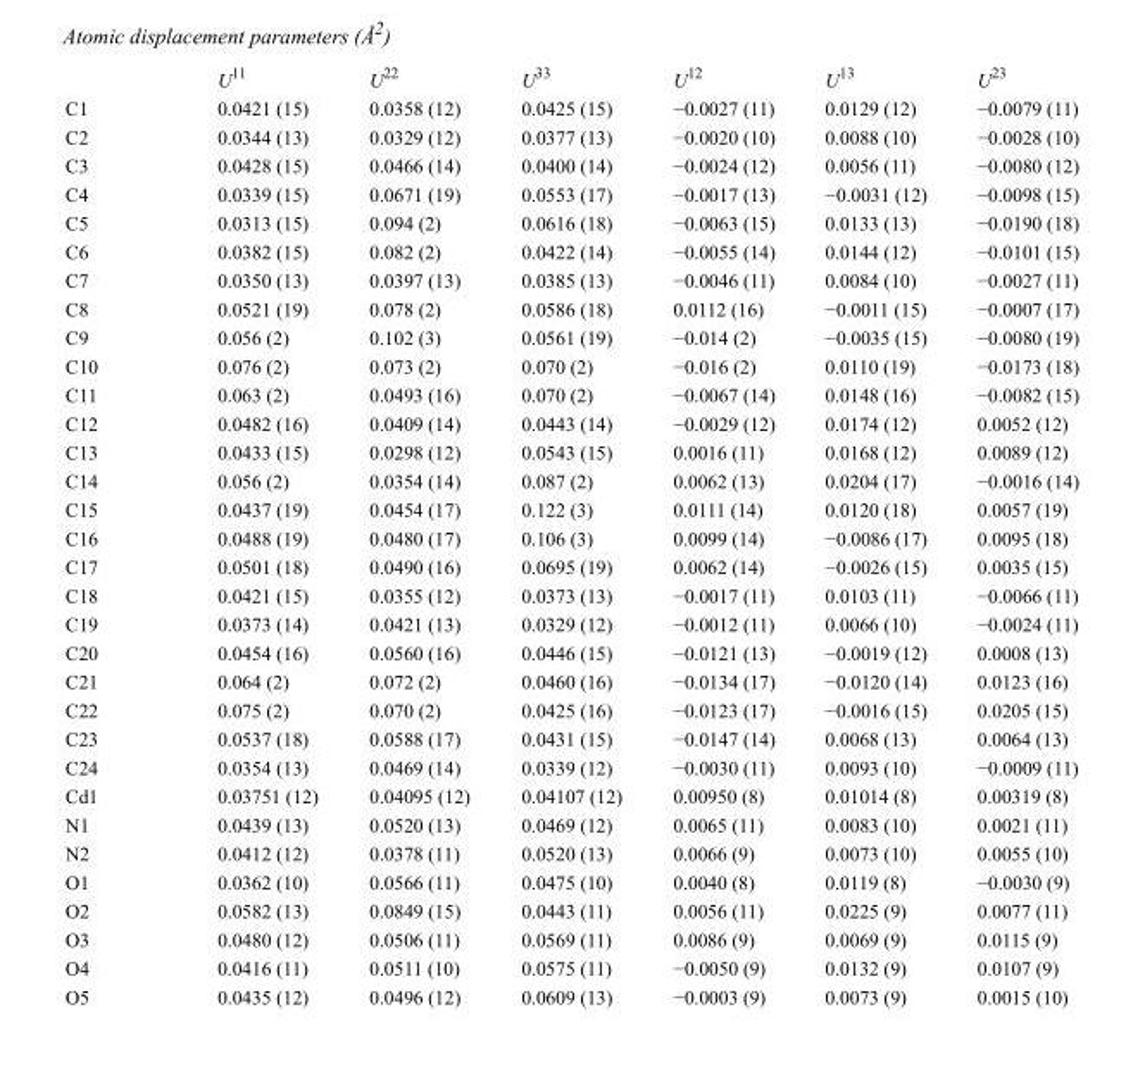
<table><thead><tr><td></td><td>U<sup>11</sup></td><td>U<sup>22</sup></td><td>U<sup>33</sup></td><td>U<sup>12</sup></td><td>U<sup>13</sup></td><td>U<sup>23</sup></td></tr></thead><tbody><tr><td>C1</td><td>0.0421 (15)</td><td>0.0358 (12)</td><td>0.0425 (15)</td><td>−0.0027 (11)</td><td>0.0129 (12)</td><td>−0.0079 (11)</td></tr><tr><td>C2</td><td>0.0344 (13)</td><td>0.0329 (12)</td><td>0.0377 (13)</td><td>−0.0020 (10)</td><td>0.0088 (10)</td><td>−0.0028 (10)</td></tr><tr><td>C3</td><td>0.0428 (15)</td><td>0.0466 (14)</td><td>0.0400 (14)</td><td>−0.0024 (12)</td><td>0.0056 (11)</td><td>−0.0080 (12)</td></tr><tr><td>C4</td><td>0.0339 (15)</td><td>0.0671 (19)</td><td>0.0553 (17)</td><td>−0.0017 (13)</td><td>−0.0031 (12)</td><td>−0.0098 (15)</td></tr><tr><td>C5</td><td>0.0313 (15)</td><td>0.094 (2)</td><td>0.0616 (18)</td><td>−0.0063 (15)</td><td>0.0133 (13)</td><td>−0.0190 (18)</td></tr><tr><td>C6</td><td>0.0382 (15)</td><td>0.082 (2)</td><td>0.0422 (14)</td><td>−0.0055 (14)</td><td>0.0144 (12)</td><td>−0.0101 (15)</td></tr><tr><td>C7</td><td>0.0350 (13)</td><td>0.0397 (13)</td><td>0.0385 (13)</td><td>−0.0046 (11)</td><td>0.0084 (10)</td><td>−0.0027 (11)</td></tr><tr><td>C8</td><td>0.0521 (19)</td><td>0.078 (2)</td><td>0.0586 (18)</td><td>0.0112 (16)</td><td>−0.0011 (15)</td><td>−0.0007 (17)</td></tr><tr><td>C9</td><td>0.056 (2)</td><td>0.102 (3)</td><td>0.0561 (19)</td><td>−0.014 (2)</td><td>−0.0035 (15)</td><td>−0.0080 (19)</td></tr><tr><td>C10</td><td>0.076 (2)</td><td>0.073 (2)</td><td>0.070 (2)</td><td>−0.016 (2)</td><td>0.0110 (19)</td><td>−0.0173 (18)</td></tr><tr><td>C11</td><td>0.063 (2)</td><td>0.0493 (16)</td><td>0.070 (2)</td><td>−0.0067 (14)</td><td>0.0148 (16)</td><td>−0.0082 (15)</td></tr><tr><td>C12</td><td>0.0482 (16)</td><td>0.0409 (14)</td><td>0.0443 (14)</td><td>−0.0029 (12)</td><td>0.0174 (12)</td><td>0.0052 (12)</td></tr><tr><td>C13</td><td>0.0433 (15)</td><td>0.0298 (12)</td><td>0.0543 (15)</td><td>0.0016 (11)</td><td>0.0168 (12)</td><td>0.0089 (12)</td></tr><tr><td>C14</td><td>0.056 (2)</td><td>0.0354 (14)</td><td>0.087 (2)</td><td>0.0062 (13)</td><td>0.0204 (17)</td><td>−0.0016 (14)</td></tr><tr><td>C15</td><td>0.0437 (19)</td><td>0.0454 (17)</td><td>0.122 (3)</td><td>0.0111 (14)</td><td>0.0120 (18)</td><td>0.0057 (19)</td></tr><tr><td>C16</td><td>0.0488 (19)</td><td>0.0480 (17)</td><td>0.106 (3)</td><td>0.0099 (14)</td><td>−0.0086 (17)</td><td>0.0095 (18)</td></tr><tr><td>C17</td><td>0.0501 (18)</td><td>0.0490 (16)</td><td>0.0695 (19)</td><td>0.0062 (14)</td><td>−0.0026 (15)</td><td>0.0035 (15)</td></tr><tr><td>C18</td><td>0.0421 (15)</td><td>0.0355 (12)</td><td>0.0373 (13)</td><td>−0.0017 (11)</td><td>0.0103 (11)</td><td>−0.0066 (11)</td></tr><tr><td>C19</td><td>0.0373 (14)</td><td>0.0421 (13)</td><td>0.0329 (12)</td><td>−0.0012 (11)</td><td>0.0066 (10)</td><td>−0.0024 (11)</td></tr><tr><td>C20</td><td>0.0454 (16)</td><td>0.0560 (16)</td><td>0.0446 (15)</td><td>−0.0121 (13)</td><td>−0.0019 (12)</td><td>0.0008 (13)</td></tr><tr><td>C21</td><td>0.064 (2)</td><td>0.072 (2)</td><td>0.0460 (16)</td><td>−0.0134 (17)</td><td>−0.0120 (14)</td><td>0.0123 (16)</td></tr><tr><td>C22</td><td>0.075 (2)</td><td>0.070 (2)</td><td>0.0425 (16)</td><td>−0.0123 (17)</td><td>−0.0016 (15)</td><td>0.0205 (15)</td></tr><tr><td>C23</td><td>0.0537 (18)</td><td>0.0588 (17)</td><td>0.0431 (15)</td><td>−0.0147 (14)</td><td>0.0068 (13)</td><td>0.0064 (13)</td></tr><tr><td>C24</td><td>0.0354 (13)</td><td>0.0469 (14)</td><td>0.0339 (12)</td><td>−0.0030 (11)</td><td>0.0093 (10)</td><td>−0.0009 (11)</td></tr><tr><td>Cd1</td><td>0.03751 (12)</td><td>0.04095 (12)</td><td>0.04107 (12)</td><td>0.00950 (8)</td><td>0.01014 (8)</td><td>0.00319 (8)</td></tr><tr><td>N1</td><td>0.0439 (13)</td><td>0.0520 (13)</td><td>0.0469 (12)</td><td>0.0065 (11)</td><td>0.0083 (10)</td><td>0.0021 (11)</td></tr><tr><td>N2</td><td>0.0412 (12)</td><td>0.0378 (11)</td><td>0.0520 (13)</td><td>0.0066 (9)</td><td>0.0073 (10)</td><td>0.0055 (10)</td></tr><tr><td>O1</td><td>0.0362 (10)</td><td>0.0566 (11)</td><td>0.0475 (10)</td><td>0.0040 (8)</td><td>0.0119 (8)</td><td>−0.0030 (9)</td></tr><tr><td>O2</td><td>0.0582 (13)</td><td>0.0849 (15)</td><td>0.0443 (11)</td><td>0.0056 (11)</td><td>0.0225 (9)</td><td>0.0077 (11)</td></tr><tr><td>O3</td><td>0.0480 (12)</td><td>0.0506 (11)</td><td>0.0569 (11)</td><td>0.0086 (9)</td><td>0.0069 (9)</td><td>0.0115 (9)</td></tr><tr><td>O4</td><td>0.0416 (11)</td><td>0.0511 (10)</td><td>0.0575 (11)</td><td>−0.0050 (9)</td><td>0.0132 (9)</td><td>0.0107 (9)</td></tr><tr><td>O5</td><td>0.0435 (12)</td><td>0.0496 (12)</td><td>0.0609 (13)</td><td>−0.0003 (9)</td><td>0.0073 (9)</td><td>0.0015 (10)</td></tr></tbody></table>